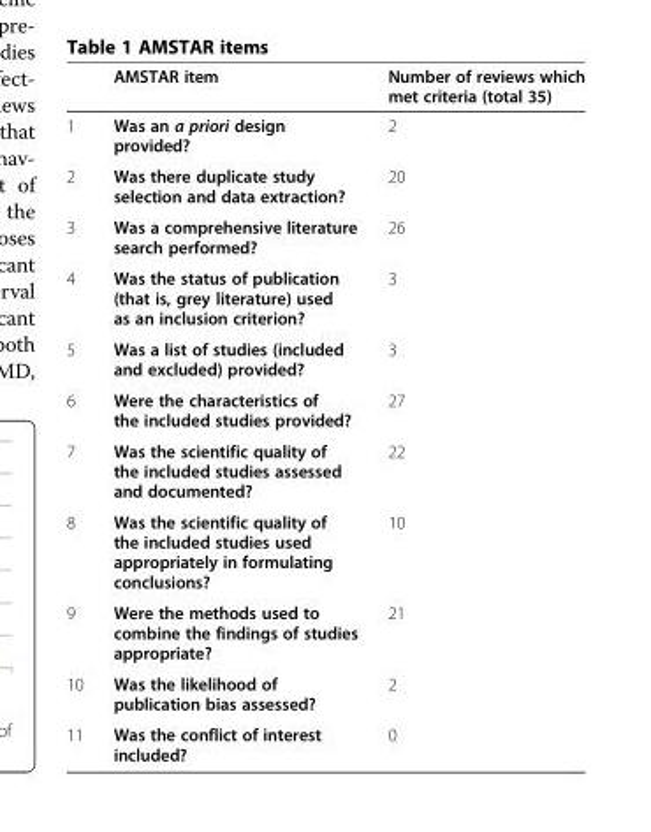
<table><thead><tr><td></td><td>AMSTAR item</td><td>Number of reviews which met criteria (total 35)</td></tr></thead><tbody><tr><td>1</td><td>Was an a priori design provided?</td><td>2</td></tr><tr><td>2</td><td>Was there duplicate study selection and data extraction?</td><td>20</td></tr><tr><td>3</td><td>Was a comprehensive literature search performed?</td><td>26</td></tr><tr><td>4</td><td>Was the status of publication (that is, grey literature) used as an inclusion criterion?</td><td>3</td></tr><tr><td>5</td><td>Was a list of studies (included and excluded) provided?</td><td>3</td></tr><tr><td>6</td><td>Were the characteristics of the included studies provided?</td><td>27</td></tr><tr><td>7</td><td>Was the scientific quality of the included studies assessed and documented?</td><td>22</td></tr><tr><td>8</td><td>Was the scientific quality of the included studies used appropriately in formulating conclusions?</td><td>10</td></tr><tr><td>9</td><td>Were the methods used to combine the findings of studies appropriate?</td><td>21</td></tr><tr><td>10</td><td>Was the likelihood of publication bias assessed?</td><td>2</td></tr><tr><td>11</td><td>Was the conflict of interest included?</td><td>0</td></tr></tbody></table>